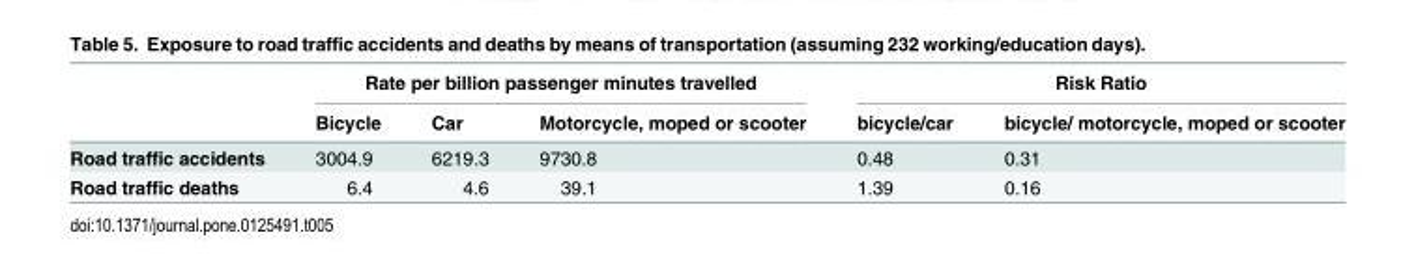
<table><thead><tr><td rowspan="2"></td><td colspan="3">Rate per billion passenger minutes travelled</td><td colspan="2">Risk Ratio</td></tr><tr><td>Bicycle</td><td>Car</td><td>Motorcycle, moped or scooter</td><td>bicycle/car</td><td>bicycle/ motorcycle, moped or scooter</td></tr></thead><tbody><tr><td>Road traffic accidents</td><td>3004.9</td><td>6219.3</td><td>9730.8</td><td>0.48</td><td>0.31</td></tr><tr><td>Road traffic deaths</td><td>6.4</td><td>4.6</td><td>39.1</td><td>1.39</td><td>0.16</td></tr></tbody></table>